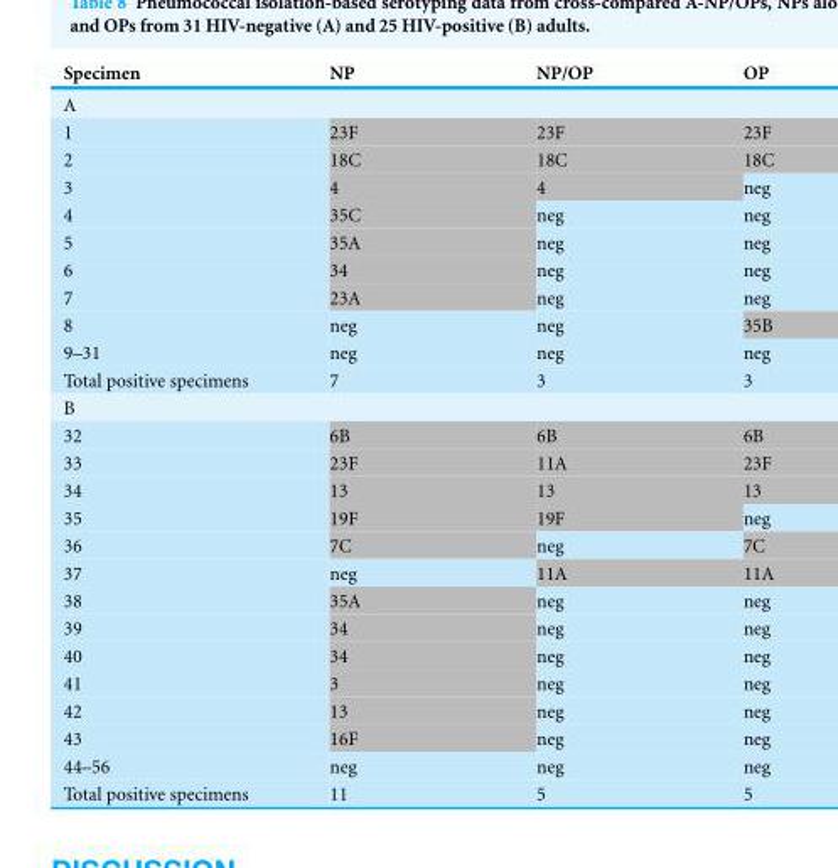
<table><thead><tr><td>Specimen</td><td>NP</td><td>NP/OP</td><td>OP</td></tr></thead><tbody><tr><td colspan="4">A</td></tr><tr><td>1</td><td>23F</td><td>23F</td><td>23F</td></tr><tr><td>2</td><td>18C</td><td>18C</td><td>18C</td></tr><tr><td>3</td><td>4</td><td>4</td><td>neg</td></tr><tr><td>4</td><td>35C</td><td>neg</td><td>neg</td></tr><tr><td>5</td><td>35A</td><td>neg</td><td>neg</td></tr><tr><td>6</td><td>34</td><td>neg</td><td>neg</td></tr><tr><td>7</td><td>23A</td><td>neg</td><td>neg</td></tr><tr><td>8</td><td>neg</td><td>neg</td><td>35B</td></tr><tr><td>9–31</td><td>neg</td><td>neg</td><td>neg</td></tr><tr><td>Total positive specimens</td><td>7</td><td>3</td><td>3</td></tr><tr><td colspan="4">B</td></tr><tr><td>32</td><td>6B</td><td>6B</td><td>6B</td></tr><tr><td>33</td><td>23F</td><td>11A</td><td>23F</td></tr><tr><td>34</td><td>13</td><td>13</td><td>13</td></tr><tr><td>35</td><td>19F</td><td>19F</td><td>neg</td></tr><tr><td>36</td><td>7C</td><td>neg</td><td>7C</td></tr><tr><td>37</td><td>neg</td><td>11A</td><td>11A</td></tr><tr><td>38</td><td>35A</td><td>neg</td><td>neg</td></tr><tr><td>39</td><td>34</td><td>neg</td><td>neg</td></tr><tr><td>40</td><td>34</td><td>neg</td><td>neg</td></tr><tr><td>41</td><td>3</td><td>neg</td><td>neg</td></tr><tr><td>42</td><td>13</td><td>neg</td><td>neg</td></tr><tr><td>43</td><td>16F</td><td>neg</td><td>neg</td></tr><tr><td>44–56</td><td>neg</td><td>neg</td><td>neg</td></tr><tr><td>Total positive specimens</td><td>11</td><td>5</td><td>5</td></tr></tbody></table>